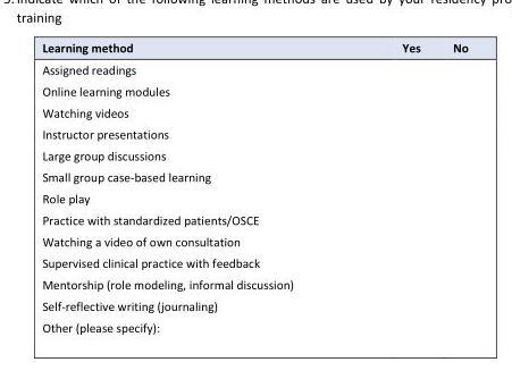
<table><thead><tr><td>Learning method</td><td>Yes</td><td>No</td></tr></thead><tbody><tr><td colspan="3">Assigned readings</td></tr><tr><td colspan="3">Online learning modules</td></tr><tr><td colspan="3">Watching videos</td></tr><tr><td colspan="3">Instructor presentations</td></tr><tr><td colspan="3">Large group discussions</td></tr><tr><td colspan="3">Small group case-based learning</td></tr><tr><td colspan="3">Role play</td></tr><tr><td colspan="3">Practice with standardized patients/OSCE</td></tr><tr><td colspan="3">Watching a video of own consultation</td></tr><tr><td colspan="3">Supervised clinical practice with feedback</td></tr><tr><td colspan="3">Mentorship (role modeling, informal discussion)</td></tr><tr><td colspan="3">Self-reflective writing (journaling)</td></tr><tr><td>Other (please specify):</td><td></td><td></td></tr></tbody></table>